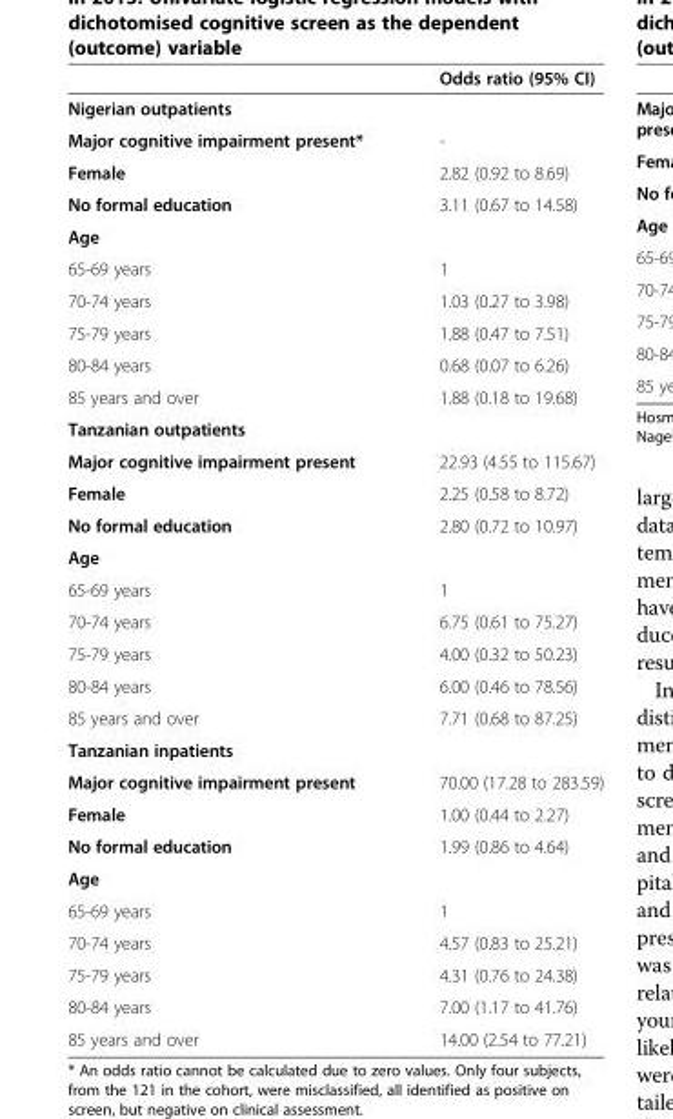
<table><thead><tr><td></td><td>Odds ratio (95% CI)</td></tr></thead><tbody><tr><td colspan="2">Nigerian outpatients</td></tr><tr><td>Major cognitive impairment present*</td><td>-</td></tr><tr><td>Female</td><td>2.82 (0.92 to 8.69)</td></tr><tr><td>No formal education</td><td>3.11 (0.67 to 14.58)</td></tr><tr><td colspan="2">Age</td></tr><tr><td>65-69 years</td><td>1</td></tr><tr><td>70-74 years</td><td>1.03 (0.27 to 3.98)</td></tr><tr><td>75-79 years</td><td>1.88 (0.47 to 7.51)</td></tr><tr><td>80-84 years</td><td>0.68 (0.07 to 6.26)</td></tr><tr><td>85 years and over</td><td>1.88 (0.18 to 19.68)</td></tr><tr><td colspan="2">Tanzanian outpatients</td></tr><tr><td>Major cognitive impairment present</td><td>22.93 (4.55 to 115.67)</td></tr><tr><td>Female</td><td>2.25 (0.58 to 8.72)</td></tr><tr><td>No formal education</td><td>2.80 (0.72 to 10.97)</td></tr><tr><td colspan="2">Age</td></tr><tr><td>65-69 years</td><td>1</td></tr><tr><td>70-74 years</td><td>6.75 (0.61 to 75.27)</td></tr><tr><td>75-79 years</td><td>4.00 (0.32 to 50.23)</td></tr><tr><td>80-84 years</td><td>6.00 (0.46 to 78.56)</td></tr><tr><td>85 years and over</td><td>7.71 (0.68 to 87.25)</td></tr><tr><td colspan="2">Tanzanian inpatients</td></tr><tr><td>Major cognitive impairment present</td><td>70.00 (17.28 to 283.59)</td></tr><tr><td>Female</td><td>1.00 (0.44 to 2.27)</td></tr><tr><td>No formal education</td><td>1.99 (0.86 to 4.64)</td></tr><tr><td colspan="2">Age</td></tr><tr><td>65-69 years</td><td>1</td></tr><tr><td>70-74 years</td><td>4.57 (0.83 to 25.21)</td></tr><tr><td>75-79 years</td><td>4.31 (0.76 to 24.38)</td></tr><tr><td>80-84 years</td><td>7.00 (1.17 to 41.76)</td></tr><tr><td>85 years and over</td><td>14.00 (2.54 to 77.21)</td></tr></tbody></table>